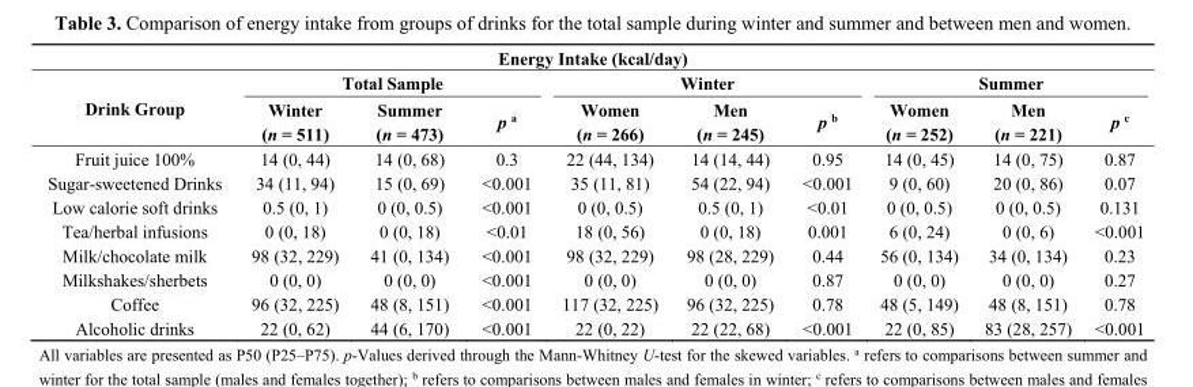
<table><thead><tr><td colspan="10">Energy Intake (kcal/day)</td></tr><tr><td rowspan="2">Drink Group</td><td colspan="3">Total Sample</td><td colspan="3">Winter</td><td colspan="3">Summer</td></tr><tr><td>Winter (n = 511)</td><td>Summer (n = 473)</td><td>p <sup>a</sup></td><td>Women (n = 266)</td><td>Men (n = 245)</td><td>p <sup>b</sup></td><td>Women (n = 252)</td><td>Men (n = 221)</td><td>p <sup>c</sup></td></tr></thead><tbody><tr><td>Fruit juice 100%</td><td>14 (0, 44)</td><td>14 (0, 68)</td><td>0.3</td><td>22 (44, 134)</td><td>14 (14, 44)</td><td>0.95</td><td>14 (0, 45)</td><td>14 (0, 75)</td><td>0.87</td></tr><tr><td>Sugar-sweetened Drinks</td><td>34 (11, 94)</td><td>15 (0, 69)</td><td>&lt;0.001</td><td>35 (11, 81)</td><td>54 (22, 94)</td><td>&lt;0.001</td><td>9 (0, 60)</td><td>20 (0, 86)</td><td>0.07</td></tr><tr><td>Low calorie soft drinks</td><td>0.5 (0, 1)</td><td>0 (0, 0.5)</td><td>&lt;0.001</td><td>0 (0, 0.5)</td><td>0.5 (0, 1)</td><td>&lt;0.01</td><td>0 (0, 0.5)</td><td>0 (0, 0.5)</td><td>0.131</td></tr><tr><td>Tea/herbal infusions</td><td>0 (0, 18)</td><td>0 (0, 18)</td><td>&lt;0.01</td><td>18 (0, 56)</td><td>0 (0, 18)</td><td>0.001</td><td>6 (0, 24)</td><td>0 (0, 6)</td><td>&lt;0.001</td></tr><tr><td>Milk/chocolate milk</td><td>98 (32, 229)</td><td>41 (0, 134)</td><td>&lt;0.001</td><td>98 (32, 229)</td><td>98 (28, 229)</td><td>0.44</td><td>56 (0, 134)</td><td>34 (0, 134)</td><td>0.23</td></tr><tr><td>Milkshakes/sherbets</td><td>0 (0, 0)</td><td>0 (0, 0)</td><td>&lt;0.001</td><td>0 (0, 0)</td><td>0 (0, 0)</td><td>0.87</td><td>0 (0, 0)</td><td>0 (0, 0)</td><td>0.27</td></tr><tr><td>Coffee</td><td>96 (32, 225)</td><td>48 (8, 151)</td><td>&lt;0.001</td><td>117 (32, 225)</td><td>96 (32, 225)</td><td>0.78</td><td>48 (5, 149)</td><td>48 (8, 151)</td><td>0.78</td></tr><tr><td>Alcoholic drinks</td><td>22 (0, 62)</td><td>44 (6, 170)</td><td>&lt;0.001</td><td>22 (0, 22)</td><td>22 (22, 68)</td><td>&lt;0.001</td><td>22 (0, 85)</td><td>83 (28, 257)</td><td>&lt;0.001</td></tr></tbody></table>